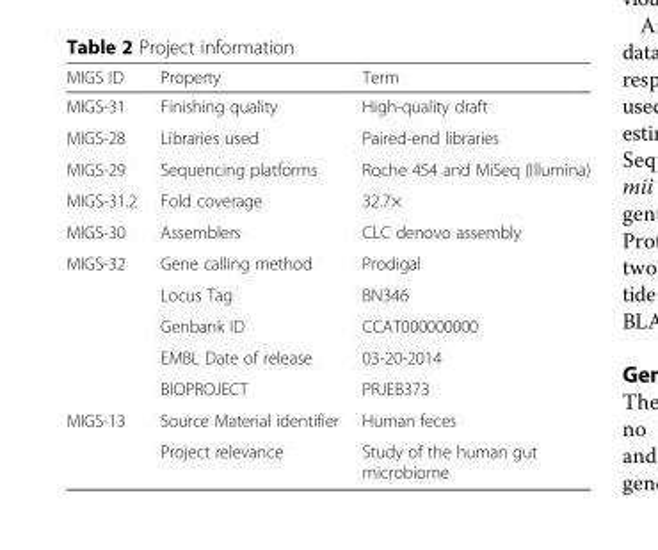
<table><thead><tr><td>MIGS ID</td><td>Property</td><td>Term</td></tr></thead><tbody><tr><td>MIGS-31</td><td>Finishing quality</td><td>High-quality draft</td></tr><tr><td>MIGS-28</td><td>Libraries used</td><td>Paired-end libraries</td></tr><tr><td>MIGS-29</td><td>Sequencing platforms</td><td>Roche 454 and MiSeq (Illumina)</td></tr><tr><td>MIGS-31.2</td><td>Fold coverage</td><td>32.7×</td></tr><tr><td>MIGS-30</td><td>Assemblers</td><td>CLC denovo assembly</td></tr><tr><td rowspan="5">MIGS-32</td><td>Gene calling method</td><td>Prodigal</td></tr><tr><td>Locus Tag</td><td>BN346</td></tr><tr><td>Genbank ID</td><td>CCAT000000000</td></tr><tr><td>EMBL Date of release</td><td>03-20-2014</td></tr><tr><td>BIOPROJECT</td><td>PRJEB373</td></tr><tr><td rowspan="2">MIGS-13</td><td>Source Material identifier</td><td>Human feces</td></tr><tr><td>Project relevance</td><td>Study of the human gut microbiome</td></tr></tbody></table>